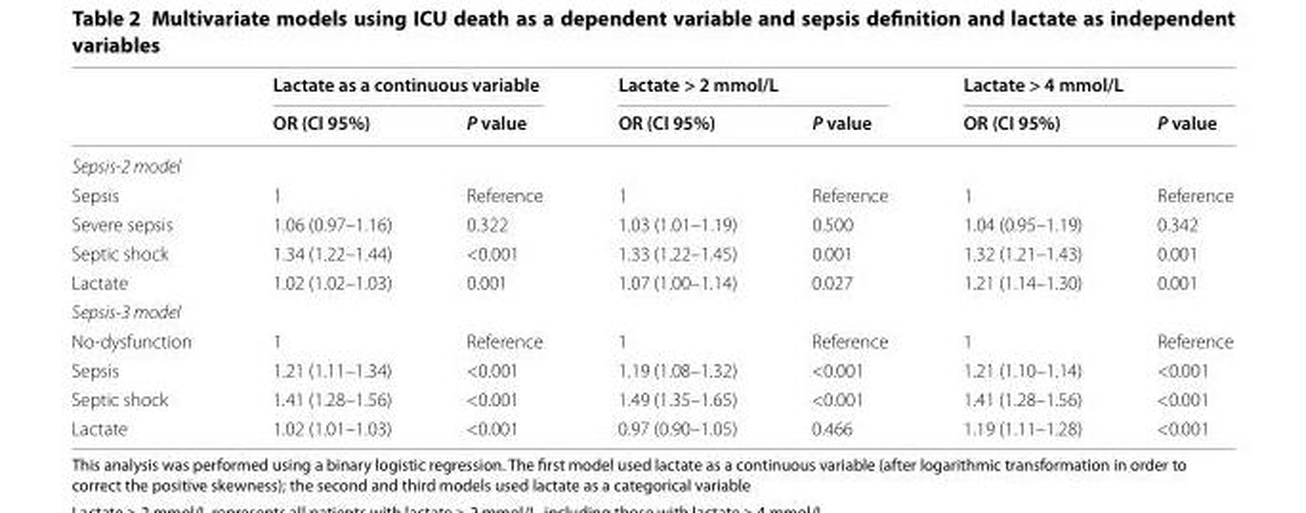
<table><thead><tr><td rowspan="2"></td><td colspan="2">Lactate as a continuous variable</td><td colspan="2">Lactate &gt; 2 mmol/L</td><td colspan="2">Lactate &gt; 4 mmol/L</td></tr><tr><td>OR (CI 95%)</td><td>P value</td><td>OR (CI 95%)</td><td>P value</td><td>OR (CI 95%)</td><td>P value</td></tr></thead><tbody><tr><td colspan="7">Sepsis-2 model</td></tr><tr><td>Sepsis</td><td>1</td><td>Reference</td><td>1</td><td>Reference</td><td>1</td><td>Reference</td></tr><tr><td>Severe sepsis</td><td>1.06 (0.97–1.16)</td><td>0.322</td><td>1.03 (1.01–1.19)</td><td>0.500</td><td>1.04 (0.95–1.19)</td><td>0.342</td></tr><tr><td>Septic shock</td><td>1.34 (1.22–1.44)</td><td>&lt;0.001</td><td>1.33 (1.22–1.45)</td><td>0.001</td><td>1.32 (1.21–1.43)</td><td>0.001</td></tr><tr><td>Lactate</td><td>1.02 (1.02–1.03)</td><td>0.001</td><td>1.07 (1.00–1.14)</td><td>0.027</td><td>1.21 (1.14–1.30)</td><td>0.001</td></tr><tr><td colspan="7">Sepsis-3 model</td></tr><tr><td>No-dysfunction</td><td>1</td><td>Reference</td><td>1</td><td>Reference</td><td>1</td><td>Reference</td></tr><tr><td>Sepsis</td><td>1.21 (1.11–1.34)</td><td>&lt;0.001</td><td>1.19 (1.08–1.32)</td><td>&lt;0.001</td><td>1.21 (1.10–1.14)</td><td>&lt;0.001</td></tr><tr><td>Septic shock</td><td>1.41 (1.28–1.56)</td><td>&lt;0.001</td><td>1.49 (1.35–1.65)</td><td>&lt;0.001</td><td>1.41 (1.28–1.56)</td><td>&lt;0.001</td></tr><tr><td>Lactate</td><td>1.02 (1.01–1.03)</td><td>&lt;0.001</td><td>0.97 (0.90–1.05)</td><td>0.466</td><td>1.19 (1.11–1.28)</td><td>&lt;0.001</td></tr></tbody></table>